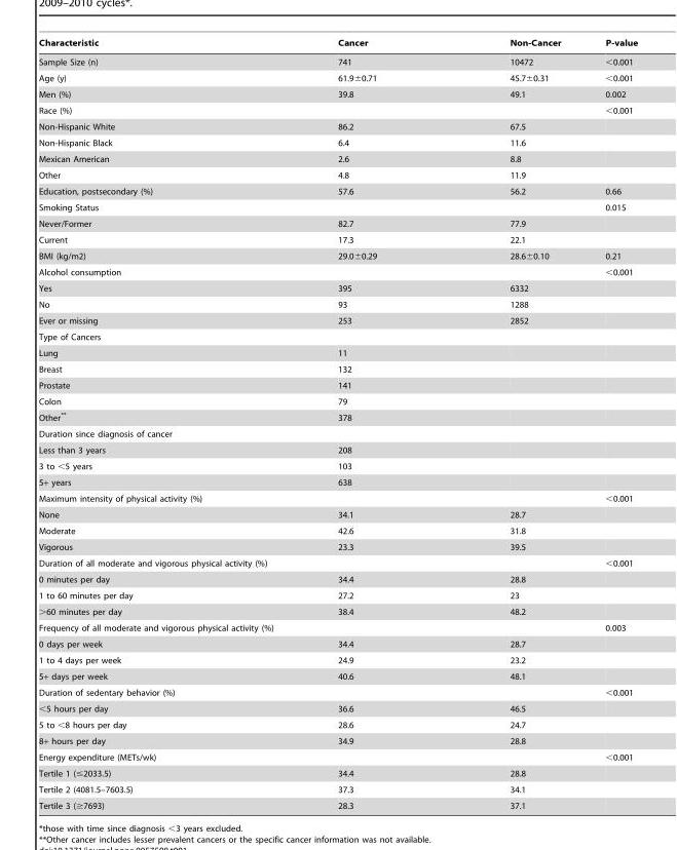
<table><thead><tr><td>Characteristic</td><td>Cancer</td><td>Non-Cancer</td><td>P-value</td></tr></thead><tbody><tr><td>Sample Size (n)</td><td>741</td><td>10472</td><td>&lt;0.001</td></tr><tr><td>Age (y)</td><td>61.9±0.71</td><td>45.7±0.31</td><td>&lt;0.001</td></tr><tr><td>Men (%)</td><td>39.8</td><td>49.1</td><td>0.002</td></tr><tr><td>Race (%)</td><td></td><td></td><td>&lt;0.001</td></tr><tr><td>Non-Hispanic White</td><td>86.2</td><td>67.5</td><td></td></tr><tr><td>Non-Hispanic Black</td><td>6.4</td><td>11.6</td><td></td></tr><tr><td>Mexican American</td><td>2.6</td><td>8.8</td><td></td></tr><tr><td>Other</td><td>4.8</td><td>11.9</td><td></td></tr><tr><td>Education, postsecondary (%)</td><td>57.6</td><td>56.2</td><td>0.66</td></tr><tr><td>Smoking Status</td><td></td><td></td><td>0.015</td></tr><tr><td>Never/Former</td><td>82.7</td><td>77.9</td><td></td></tr><tr><td>Current</td><td>17.3</td><td>22.1</td><td></td></tr><tr><td>BMI (kg/m2)</td><td>29.0±0.29</td><td>28.6±0.10</td><td>0.21</td></tr><tr><td>Alcohol consumption</td><td></td><td></td><td>&lt;0.001</td></tr><tr><td>Yes</td><td>395</td><td>6332</td><td></td></tr><tr><td>No</td><td>93</td><td>1288</td><td></td></tr><tr><td>Ever or missing</td><td>253</td><td>2852</td><td></td></tr><tr><td colspan="4">Type of Cancers</td></tr><tr><td>Lung</td><td>11</td><td></td><td></td></tr><tr><td>Breast</td><td>132</td><td></td><td></td></tr><tr><td>Prostate</td><td>141</td><td></td><td></td></tr><tr><td>Colon</td><td>79</td><td></td><td></td></tr><tr><td>Other**</td><td>378</td><td></td><td></td></tr><tr><td colspan="4">Duration since diagnosis of cancer</td></tr><tr><td>Less than 3 years</td><td>208</td><td></td><td></td></tr><tr><td>3 to &lt;5 years</td><td>103</td><td></td><td></td></tr><tr><td>5+ years</td><td>638</td><td></td><td></td></tr><tr><td>Maximum intensity of physical activity (%)</td><td></td><td></td><td>&lt;0.001</td></tr><tr><td>None</td><td>34.1</td><td>28.7</td><td></td></tr><tr><td>Moderate</td><td>42.6</td><td>31.8</td><td></td></tr><tr><td>Vigorous</td><td>23.3</td><td>39.5</td><td></td></tr><tr><td>Duration of all moderate and vigorous physical activity (%)</td><td></td><td></td><td>&lt;0.001</td></tr><tr><td>0 minutes per day</td><td>34.4</td><td>28.8</td><td></td></tr><tr><td>1 to 60 minutes per day</td><td>27.2</td><td>23</td><td></td></tr><tr><td>&gt;60 minutes per day</td><td>38.4</td><td>48.2</td><td></td></tr><tr><td>Frequency of all moderate and vigorous physical activity (%)</td><td></td><td></td><td>0.003</td></tr><tr><td>0 days per week</td><td>34.4</td><td>28.7</td><td></td></tr><tr><td>1 to 4 days per week</td><td>24.9</td><td>23.2</td><td></td></tr><tr><td>5+ days per week</td><td>40.6</td><td>48.1</td><td></td></tr><tr><td>Duration of sedentary behavior (%)</td><td></td><td></td><td>&lt;0.001</td></tr><tr><td>&lt;5 hours per day</td><td>36.6</td><td>46.5</td><td></td></tr><tr><td>5 to &lt;8 hours per day</td><td>28.6</td><td>24.7</td><td></td></tr><tr><td>8+ hours per day</td><td>34.9</td><td>28.8</td><td></td></tr><tr><td>Energy expenditure (METs/wk)</td><td></td><td></td><td>&lt;0.001</td></tr><tr><td>Tertile 1 (≤2033.5)</td><td>34.4</td><td>28.8</td><td></td></tr><tr><td>Tertile 2 (4081.5–7603.5)</td><td>37.3</td><td>34.1</td><td></td></tr><tr><td>Tertile 3 (≥7693)</td><td>28.3</td><td>37.1</td><td></td></tr></tbody></table>